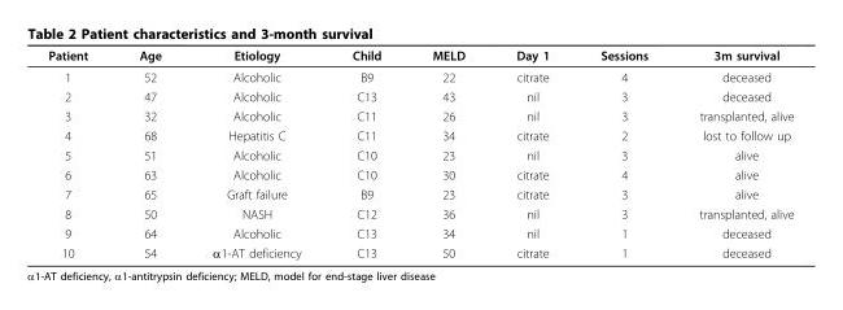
<table><thead><tr><td>Patient</td><td>Age</td><td>Etiology</td><td>Child</td><td>MELD</td><td>Day 1</td><td>Sessions</td><td>3m survival</td></tr></thead><tbody><tr><td>1</td><td>52</td><td>Alcoholic</td><td>B9</td><td>22</td><td>citrate</td><td>4</td><td>deceased</td></tr><tr><td>2</td><td>47</td><td>Alcoholic</td><td>C13</td><td>43</td><td>nil</td><td>3</td><td>deceased</td></tr><tr><td>3</td><td>32</td><td>Alcoholic</td><td>C11</td><td>26</td><td>nil</td><td>3</td><td>transplanted, alive</td></tr><tr><td>4</td><td>68</td><td>Hepatitis C</td><td>C11</td><td>34</td><td>citrate</td><td>2</td><td>lost to follow up</td></tr><tr><td>5</td><td>51</td><td>Alcoholic</td><td>C10</td><td>23</td><td>nil</td><td>3</td><td>alive</td></tr><tr><td>6</td><td>63</td><td>Alcoholic</td><td>C10</td><td>30</td><td>citrate</td><td>4</td><td>alive</td></tr><tr><td>7</td><td>65</td><td>Graft failure</td><td>B9</td><td>23</td><td>citrate</td><td>3</td><td>alive</td></tr><tr><td>8</td><td>50</td><td>NASH</td><td>C12</td><td>36</td><td>nil</td><td>3</td><td>transplanted, alive</td></tr><tr><td>9</td><td>64</td><td>Alcoholic</td><td>C13</td><td>34</td><td>nil</td><td>1</td><td>deceased</td></tr><tr><td>10</td><td>54</td><td>α1-AT deficiency</td><td>C13</td><td>50</td><td>citrate</td><td>1</td><td>deceased</td></tr></tbody></table>